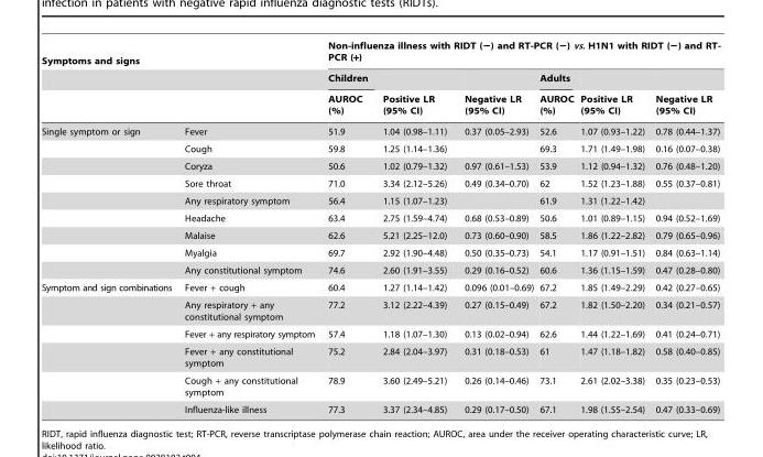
<table><thead><tr><td colspan="2">Symptoms and signs</td><td colspan="6">Non-influenza illness with RIDT (−) and RT-PCR (−) vs. H1N1 with RIDT (−) and RT- PCR (+)</td></tr><tr><td rowspan="2"></td><td rowspan="2"></td><td rowspan="2">Children AUROC (%)</td><td rowspan="2">Positive LR (95% CI)</td><td rowspan="2">Negative LR (95% CI)</td><td rowspan="2">Adults AUROC (%)</td><td rowspan="2">Positive LR (95% CI)</td><td rowspan="2">Negative LR (95% CI)</td></tr><tr></tr></thead><tbody><tr><td rowspan="9">Single symptom or sign</td><td>Fever</td><td>51.9</td><td>1.04 (0.98–1.11)</td><td>0.37 (0.05–2.93)</td><td>52.6</td><td>1.07 (0.93–1.22)</td><td>0.78 (0.44–1.37)</td></tr><tr><td>Cough</td><td>59.8</td><td>1.25 (1.14–1.36)</td><td></td><td>69.3</td><td>1.71 (1.49–1.98)</td><td>0.16 (0.07–0.38)</td></tr><tr><td>Coryza</td><td>50.6</td><td>1.02 (0.79–1.32)</td><td>0.97 (0.61–1.53)</td><td>53.9</td><td>1.12 (0.94–1.32)</td><td>0.76 (0.48–1.20)</td></tr><tr><td>Sore throat</td><td>71.0</td><td>3.34 (2.12–5.26)</td><td>0.49 (0.34–0.70)</td><td>62</td><td>1.52 (1.23–1.88)</td><td>0.55 (0.37–0.81)</td></tr><tr><td>Any respiratory symptom</td><td>56.4</td><td>1.15 (1.07–1.23)</td><td></td><td>61.9</td><td>1.31 (1.22–1.42)</td><td></td></tr><tr><td>Headache</td><td>63.4</td><td>2.75 (1.59–4.74)</td><td>0.68 (0.53–0.89)</td><td>50.6</td><td>1.01 (0.89–1.15)</td><td>0.94 (0.52–1.69)</td></tr><tr><td>Malaise</td><td>62.6</td><td>5.21 (2.25–12.0)</td><td>0.73 (0.60–0.90)</td><td>58.5</td><td>1.86 (1.22–2.82)</td><td>0.79 (0.65–0.96)</td></tr><tr><td>Myalgia</td><td>69.7</td><td>2.92 (1.90–4.48)</td><td>0.50 (0.35–0.73)</td><td>54.1</td><td>1.17 (0.91–1.51)</td><td>0.84 (0.63–1.14)</td></tr><tr><td>Any constitutional symptom</td><td>74.6</td><td>2.60 (1.91–3.55)</td><td>0.29 (0.16–0.52)</td><td>60.6</td><td>1.36 (1.15–1.59)</td><td>0.47 (0.28–0.80)</td></tr><tr><td rowspan="6">Symptom and sign combinations</td><td>Fever + cough</td><td>60.4</td><td>1.27 (1.14–1.42)</td><td>0.096 (0.01–0.69)</td><td>67.2</td><td>1.85 (1.49–2.29)</td><td>0.42 (0.27–0.65)</td></tr><tr><td>Any respiratory + any constitutional symptom</td><td>77.2</td><td>3.12 (2.22–4.39)</td><td>0.27 (0.15–0.49)</td><td>67.2</td><td>1.82 (1.50–2.20)</td><td>0.34 (0.21–0.57)</td></tr><tr><td>Fever + any respiratory symptom</td><td>57.4</td><td>1.18 (1.07–1.30)</td><td>0.13 (0.02–0.94)</td><td>62.6</td><td>1.44 (1.22–1.69)</td><td>0.41 (0.24–0.71)</td></tr><tr><td>Fever + any constitutional symptom</td><td>75.2</td><td>2.84 (2.04–3.97)</td><td>0.31 (0.18–0.53)</td><td>61</td><td>1.47 (1.18–1.82)</td><td>0.58 (0.40–0.85)</td></tr><tr><td>Cough + any constitutional symptom</td><td>78.9</td><td>3.60 (2.49–5.21)</td><td>0.26 (0.14–0.46)</td><td>73.1</td><td>2.61 (2.02–3.38)</td><td>0.35 (0.23–0.53)</td></tr><tr><td>Influenza-like illness</td><td>77.3</td><td>3.37 (2.34–4.85)</td><td>0.29 (0.17–0.50)</td><td>67.1</td><td>1.98 (1.55–2.54)</td><td>0.47 (0.33–0.69)</td></tr></tbody></table>